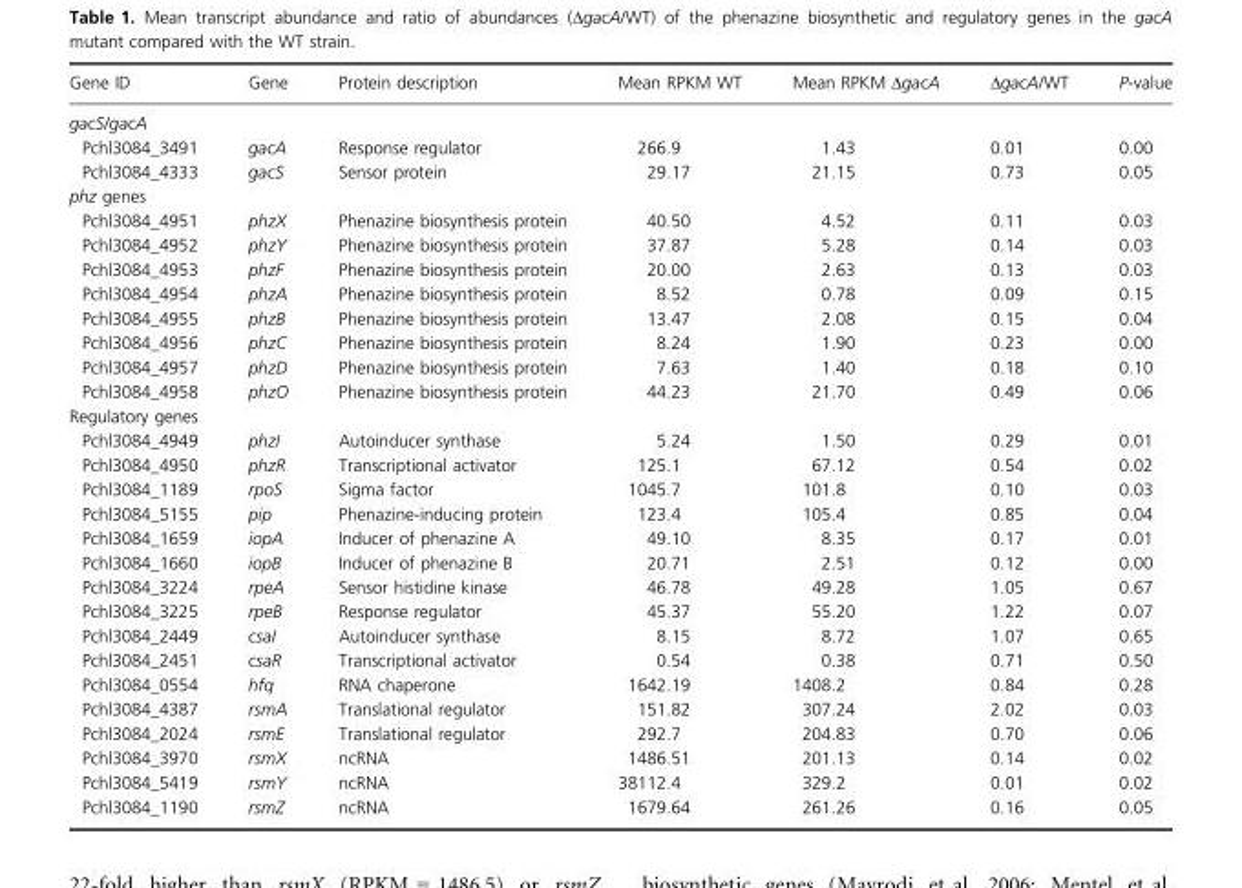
<table><thead><tr><td>Gene ID</td><td>Gene</td><td>Protein description</td><td>Mean RPKM WT</td><td>Mean RPKM ΔgacA</td><td>ΔgacA/WT</td><td>P-value</td></tr></thead><tbody><tr><td colspan="7">gacS/gacA</td></tr><tr><td>Pchl3084_3491</td><td>gacA</td><td>Response regulator</td><td>266.9</td><td>1.43</td><td>0.01</td><td>0.00</td></tr><tr><td>Pchl3084_4333</td><td>gacS</td><td>Sensor protein</td><td>29.17</td><td>21.15</td><td>0.73</td><td>0.05</td></tr><tr><td colspan="7">phz genes</td></tr><tr><td>Pchl3084_4951</td><td>phzX</td><td>Phenazine biosynthesis protein</td><td>40.50</td><td>4.52</td><td>0.11</td><td>0.03</td></tr><tr><td>Pchl3084_4952</td><td>phzY</td><td>Phenazine biosynthesis protein</td><td>37.87</td><td>5.28</td><td>0.14</td><td>0.03</td></tr><tr><td>Pchl3084_4953</td><td>phzF</td><td>Phenazine biosynthesis protein</td><td>20.00</td><td>2.63</td><td>0.13</td><td>0.03</td></tr><tr><td>Pchl3084_4954</td><td>phzA</td><td>Phenazine biosynthesis protein</td><td>8.52</td><td>0.78</td><td>0.09</td><td>0.15</td></tr><tr><td>Pchl3084_4955</td><td>phzB</td><td>Phenazine biosynthesis protein</td><td>13.47</td><td>2.08</td><td>0.15</td><td>0.04</td></tr><tr><td>Pchl3084_4956</td><td>phzC</td><td>Phenazine biosynthesis protein</td><td>8.24</td><td>1.90</td><td>0.23</td><td>0.00</td></tr><tr><td>Pchl3084_4957</td><td>phzD</td><td>Phenazine biosynthesis protein</td><td>7.63</td><td>1.40</td><td>0.18</td><td>0.10</td></tr><tr><td>Pchl3084_4958</td><td>phzO</td><td>Phenazine biosynthesis protein</td><td>44.23</td><td>21.70</td><td>0.49</td><td>0.06</td></tr><tr><td colspan="7">Regulatory genes</td></tr><tr><td>Pchl3084_4949</td><td>phzI</td><td>Autoinducer synthase</td><td>5.24</td><td>1.50</td><td>0.29</td><td>0.01</td></tr><tr><td>Pchl3084_4950</td><td>phzR</td><td>Transcriptional activator</td><td>125.1</td><td>67.12</td><td>0.54</td><td>0.02</td></tr><tr><td>Pchl3084_1189</td><td>rpoS</td><td>Sigma factor</td><td>1045.7</td><td>101.8</td><td>0.10</td><td>0.03</td></tr><tr><td>Pchl3084_5155</td><td>pip</td><td>Phenazine-inducing protein</td><td>123.4</td><td>105.4</td><td>0.85</td><td>0.04</td></tr><tr><td>Pchl3084_1659</td><td>iopA</td><td>Inducer of phenazine A</td><td>49.10</td><td>8.35</td><td>0.17</td><td>0.01</td></tr><tr><td>Pchl3084_1660</td><td>iopB</td><td>Inducer of phenazine B</td><td>20.71</td><td>2.51</td><td>0.12</td><td>0.00</td></tr><tr><td>Pchl3084_3224</td><td>rpeA</td><td>Sensor histidine kinase</td><td>46.78</td><td>49.28</td><td>1.05</td><td>0.67</td></tr><tr><td>Pchl3084_3225</td><td>rpeB</td><td>Response regulator</td><td>45.37</td><td>55.20</td><td>1.22</td><td>0.07</td></tr><tr><td>Pchl3084_2449</td><td>csaI</td><td>Autoinducer synthase</td><td>8.15</td><td>8.72</td><td>1.07</td><td>0.65</td></tr><tr><td>Pchl3084_2451</td><td>csaR</td><td>Transcriptional activator</td><td>0.54</td><td>0.38</td><td>0.71</td><td>0.50</td></tr><tr><td>Pchl3084_0554</td><td>hfq</td><td>RNA chaperone</td><td>1642.19</td><td>1408.2</td><td>0.84</td><td>0.28</td></tr><tr><td>Pchl3084_4387</td><td>rsmA</td><td>Translational regulator</td><td>151.82</td><td>307.24</td><td>2.02</td><td>0.03</td></tr><tr><td>Pchl3084_2024</td><td>rsmE</td><td>Translational regulator</td><td>292.7</td><td>204.83</td><td>0.70</td><td>0.06</td></tr><tr><td>Pchl3084_3970</td><td>rsmX</td><td>ncRNA</td><td>1486.51</td><td>201.13</td><td>0.14</td><td>0.02</td></tr><tr><td>Pchl3084_5419</td><td>rsmY</td><td>ncRNA</td><td>38112.4</td><td>329.2</td><td>0.01</td><td>0.02</td></tr><tr><td>Pchl3084_1190</td><td>rsmZ</td><td>ncRNA</td><td>1679.64</td><td>261.26</td><td>0.16</td><td>0.05</td></tr></tbody></table>